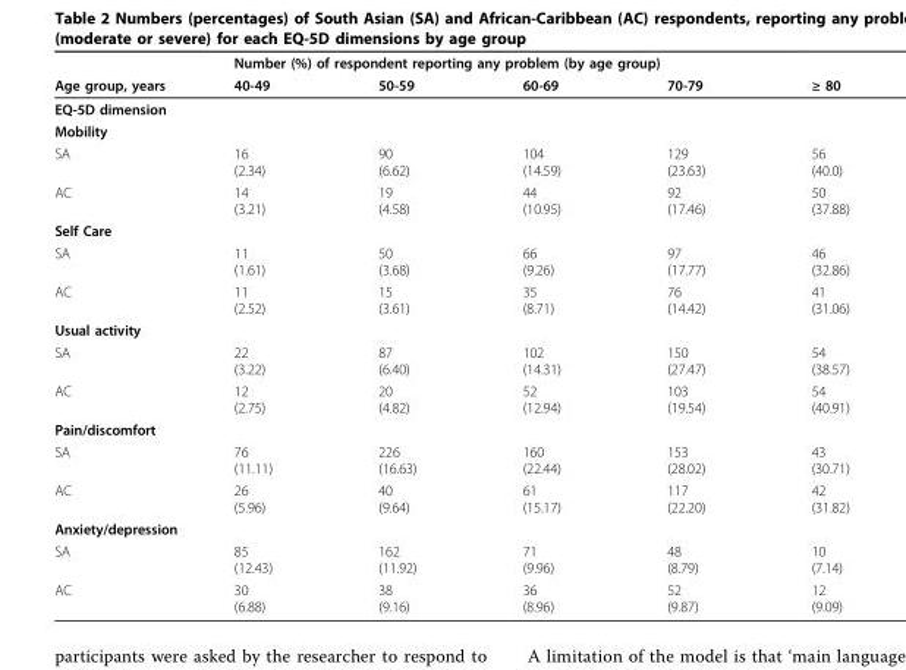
<table><thead><tr><td rowspan="2">Age group, years</td><td colspan="5">Number (%) of respondent reporting any problem (by age group)</td></tr><tr><td>40-49</td><td>50-59</td><td>60-69</td><td>70-79</td><td>≥ 80</td></tr></thead><tbody><tr><td colspan="6">EQ-5D dimension</td></tr><tr><td colspan="6">Mobility</td></tr><tr><td>SA</td><td>16 (2.34)</td><td>90 (6.62)</td><td>104 (14.59)</td><td>129 (23.63)</td><td>56 (40.0)</td></tr><tr><td>AC</td><td>14 (3.21)</td><td>19 (4.58)</td><td>44 (10.95)</td><td>92 (17.46)</td><td>50 (37.88)</td></tr><tr><td colspan="6">Self Care</td></tr><tr><td>SA</td><td>11 (1.61)</td><td>50 (3.68)</td><td>66 (9.26)</td><td>97 (17.77)</td><td>46 (32.86)</td></tr><tr><td>AC</td><td>11 (2.52)</td><td>15 (3.61)</td><td>35 (8.71)</td><td>76 (14.42)</td><td>41 (31.06)</td></tr><tr><td colspan="6">Usual activity</td></tr><tr><td>SA</td><td>22 (3.22)</td><td>87 (6.40)</td><td>102 (14.31)</td><td>150 (27.47)</td><td>54 (38.57)</td></tr><tr><td>AC</td><td>12 (2.75)</td><td>20 (4.82)</td><td>52 (12.94)</td><td>103 (19.54)</td><td>54 (40.91)</td></tr><tr><td colspan="6">Pain/discomfort</td></tr><tr><td>SA</td><td>76 (11.11)</td><td>226 (16.63)</td><td>160 (22.44)</td><td>153 (28.02)</td><td>43 (30.71)</td></tr><tr><td>AC</td><td>26 (5.96)</td><td>40 (9.64)</td><td>61 (15.17)</td><td>117 (22.20)</td><td>42 (31.82)</td></tr><tr><td colspan="6">Anxiety/depression</td></tr><tr><td>SA</td><td>85 (12.43)</td><td>162 (11.92)</td><td>71 (9.96)</td><td>48 (8.79)</td><td>10 (7.14)</td></tr><tr><td>AC</td><td>30 (6.88)</td><td>38 (9.16)</td><td>36 (8.96)</td><td>52 (9.87)</td><td>12 (9.09)</td></tr></tbody></table>